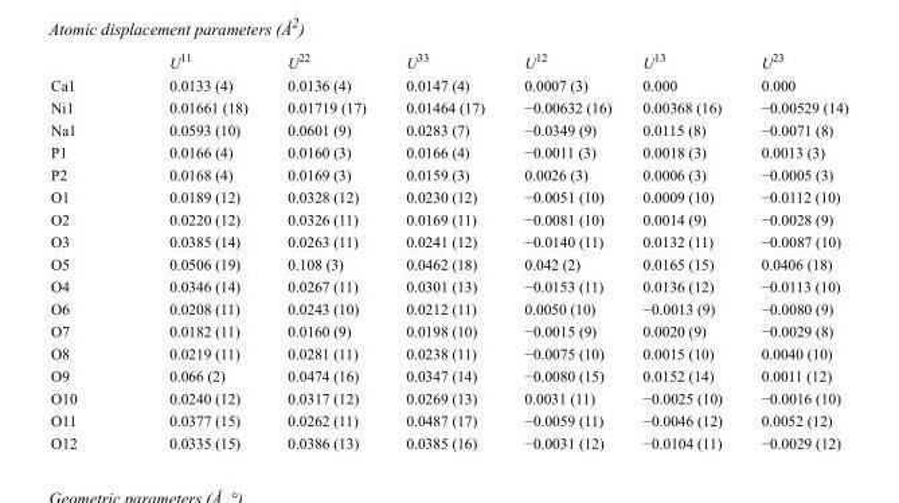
<table><thead><tr><td></td><td>U<sup>11</sup></td><td>U<sup>22</sup></td><td>U<sup>33</sup></td><td>U<sup>12</sup></td><td>U<sup>13</sup></td><td>U<sup>23</sup></td></tr></thead><tbody><tr><td>Ca1</td><td>0.0133 (4)</td><td>0.0136 (4)</td><td>0.0147 (4)</td><td>0.0007 (3)</td><td>0.000</td><td>0.000</td></tr><tr><td>Ni1</td><td>0.01661 (18)</td><td>0.01719 (17)</td><td>0.01464 (17)</td><td>−0.00632 (16)</td><td>0.00368 (16)</td><td>−0.00529 (14)</td></tr><tr><td>Na1</td><td>0.0593 (10)</td><td>0.0601 (9)</td><td>0.0283 (7)</td><td>−0.0349 (9)</td><td>0.0115 (8)</td><td>−0.0071 (8)</td></tr><tr><td>P1</td><td>0.0166 (4)</td><td>0.0160 (3)</td><td>0.0166 (4)</td><td>−0.0011 (3)</td><td>0.0018 (3)</td><td>0.0013 (3)</td></tr><tr><td>P2</td><td>0.0168 (4)</td><td>0.0169 (3)</td><td>0.0159 (3)</td><td>0.0026 (3)</td><td>0.0006 (3)</td><td>−0.0005 (3)</td></tr><tr><td>O1</td><td>0.0189 (12)</td><td>0.0328 (12)</td><td>0.0230 (12)</td><td>−0.0051 (10)</td><td>0.0009 (10)</td><td>−0.0112 (10)</td></tr><tr><td>O2</td><td>0.0220 (12)</td><td>0.0326 (11)</td><td>0.0169 (11)</td><td>−0.0081 (10)</td><td>0.0014 (9)</td><td>−0.0028 (9)</td></tr><tr><td>O3</td><td>0.0385 (14)</td><td>0.0263 (11)</td><td>0.0241 (12)</td><td>−0.0140 (11)</td><td>0.0132 (11)</td><td>−0.0087 (10)</td></tr><tr><td>O5</td><td>0.0506 (19)</td><td>0.108 (3)</td><td>0.0462 (18)</td><td>0.042 (2)</td><td>0.0165 (15)</td><td>0.0406 (18)</td></tr><tr><td>O4</td><td>0.0346 (14)</td><td>0.0267 (11)</td><td>0.0301 (13)</td><td>−0.0153 (11)</td><td>0.0136 (12)</td><td>−0.0113 (10)</td></tr><tr><td>O6</td><td>0.0208 (11)</td><td>0.0243 (10)</td><td>0.0212 (11)</td><td>0.0050 (10)</td><td>−0.0013 (9)</td><td>−0.0080 (9)</td></tr><tr><td>O7</td><td>0.0182 (11)</td><td>0.0160 (9)</td><td>0.0198 (10)</td><td>−0.0015 (9)</td><td>0.0020 (9)</td><td>−0.0029 (8)</td></tr><tr><td>O8</td><td>0.0219 (11)</td><td>0.0281 (11)</td><td>0.0238 (11)</td><td>−0.0075 (10)</td><td>0.0015 (10)</td><td>0.0040 (10)</td></tr><tr><td>O9</td><td>0.066 (2)</td><td>0.0474 (16)</td><td>0.0347 (14)</td><td>−0.0080 (15)</td><td>0.0152 (14)</td><td>0.0011 (12)</td></tr><tr><td>O10</td><td>0.0240 (12)</td><td>0.0317 (12)</td><td>0.0269 (13)</td><td>0.0031 (11)</td><td>−0.0025 (10)</td><td>−0.0016 (10)</td></tr><tr><td>O11</td><td>0.0377 (15)</td><td>0.0262 (11)</td><td>0.0487 (17)</td><td>−0.0059 (11)</td><td>−0.0046 (12)</td><td>0.0052 (12)</td></tr><tr><td>O12</td><td>0.0335 (15)</td><td>0.0386 (13)</td><td>0.0385 (16)</td><td>−0.0031 (12)</td><td>−0.0104 (11)</td><td>−0.0029 (12)</td></tr></tbody></table>